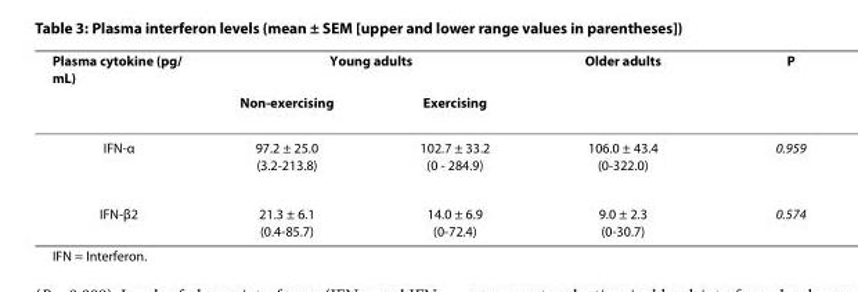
<table><thead><tr><td rowspan="2">Plasma cytokine (pg/ mL)</td><td colspan="2">Young adults</td><td rowspan="2">Older adults</td><td rowspan="2">P</td></tr><tr><td>Non-exercising</td><td>Exercising</td></tr></thead><tbody><tr><td>IFN-α</td><td>97.2 ± 25.0 (3.2-213.8)</td><td>102.7 ± 33.2 (0 - 284.9)</td><td>106.0 ± 43.4 (0-322.0)</td><td>0.959</td></tr><tr><td>IFN-β2</td><td>21.3 ± 6.1 (0.4-85.7)</td><td>14.0 ± 6.9 (0-72.4)</td><td>9.0 ± 2.3 (0-30.7)</td><td>0.574</td></tr></tbody></table>